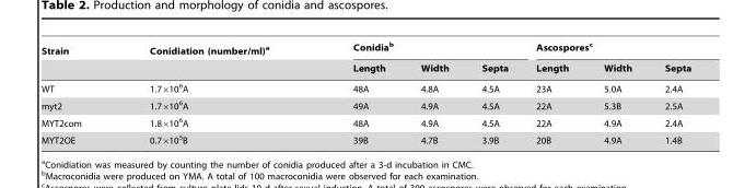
<table><thead><tr><td rowspan="2">Strain</td><td rowspan="2">Conidiation (number/ml)<sup>a</sup></td><td colspan="3">Conidia<sup>b</sup></td><td colspan="3">Ascospores<sup>c</sup></td></tr><tr><td>Length</td><td>Width</td><td>Septa</td><td>Length</td><td>Width</td><td>Septa</td></tr></thead><tbody><tr><td>WT</td><td>1.7×10<sup>6</sup>A</td><td>48A</td><td>4.8A</td><td>4.5A</td><td>23A</td><td>5.0A</td><td>2.4A</td></tr><tr><td>myt2</td><td>1.7×10<sup>6</sup>A</td><td>49A</td><td>4.9A</td><td>4.5A</td><td>22A</td><td>5.3B</td><td>2.5A</td></tr><tr><td>MYT2com</td><td>1.8×10<sup>6</sup>A</td><td>48A</td><td>4.9A</td><td>4.5A</td><td>22A</td><td>4.9A</td><td>2.4A</td></tr><tr><td>MYT2OE</td><td>0.7×10<sup>5</sup>B</td><td>39B</td><td>4.7B</td><td>3.9B</td><td>20B</td><td>4.9A</td><td>1.4B</td></tr></tbody></table>